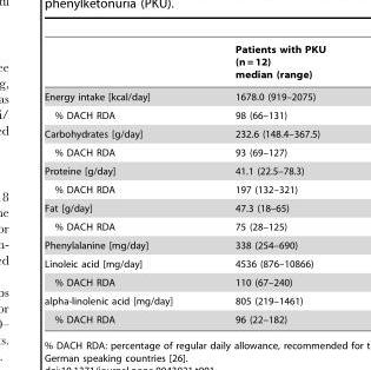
<table><thead><tr><td></td><td>Patients with PKU (n = 12) median (range)</td></tr></thead><tbody><tr><td>Energy intake [kcal/day]</td><td>1678.0 (919–2075)</td></tr><tr><td>% DACH RDA</td><td>98 (66–131)</td></tr><tr><td>Carbohydrates [g/day]</td><td>232.6 (148.4–367.5)</td></tr><tr><td>% DACH RDA</td><td>93 (69–127)</td></tr><tr><td>Proteine [g/day]</td><td>41.1 (22.5–78.3)</td></tr><tr><td>% DACH RDA</td><td>197 (132–321)</td></tr><tr><td>Fat [g/day]</td><td>47.3 (18–65)</td></tr><tr><td>% DACH RDA</td><td>75 (28–125)</td></tr><tr><td>Phenylalanine [mg/day]</td><td>338 (254–690)</td></tr><tr><td>Linoleic acid [mg/day]</td><td>4536 (876–10866)</td></tr><tr><td>% DACH RDA</td><td>110 (67–240)</td></tr><tr><td>alpha-linolenic acid [mg/day]</td><td>805 (219–1461)</td></tr><tr><td>% DACH RDA</td><td>96 (22–182)</td></tr></tbody></table>